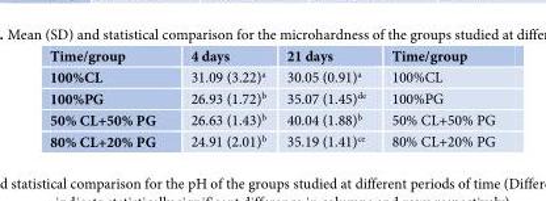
<table><thead><tr><td>Time/group</td><td>4 days</td><td>21 days</td><td>Time/group</td></tr></thead><tbody><tr><td>100%CL</td><td>31.09 (3.22)<sup>a</sup></td><td>30.05 (0.91)<sup>a</sup></td><td>100%CL</td></tr><tr><td>100%PG</td><td>26.93 (1.72)<sup>b</sup></td><td>35.07 (1.45)<sup>de</sup></td><td>100%PG</td></tr><tr><td>50% CL+50% PG</td><td>26.63 (1.43)<sup>b</sup></td><td>40.04 (1.88)<sup>b</sup></td><td>50% CL+50% PG</td></tr><tr><td>80% CL+20% PG</td><td>24.91 (2.01)<sup>b</sup></td><td>35.19 (1.41)<sup>ce</sup></td><td>80% CL+20% PG</td></tr></tbody></table>